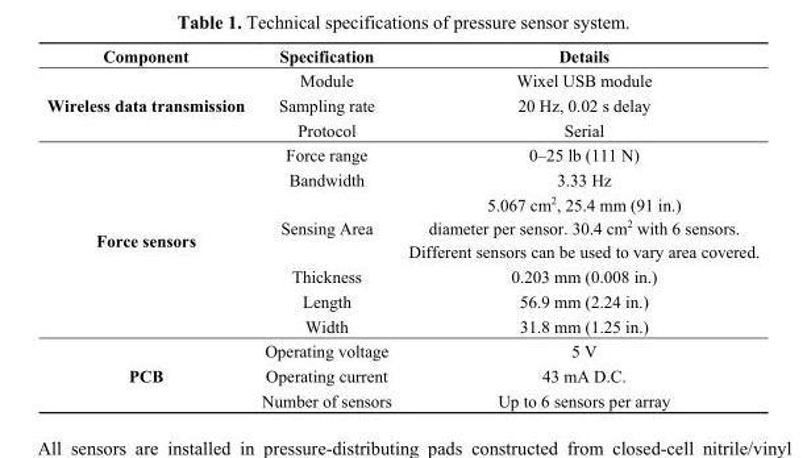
<table><thead><tr><td>Component</td><td>Specification</td><td>Details</td></tr></thead><tbody><tr><td rowspan="3">Wireless data transmission</td><td>Module</td><td>Wixel USB module</td></tr><tr><td>Sampling rate</td><td>20 Hz, 0.02 s delay</td></tr><tr><td>Protocol</td><td>Serial</td></tr><tr><td rowspan="6">Force sensors</td><td>Force range</td><td>0–25 lb (111 N)</td></tr><tr><td>Bandwidth</td><td>3.33 Hz</td></tr><tr><td>Sensing Area</td><td>5.067 cm<sup>2</sup>, 25.4 mm (91 in.) diameter per sensor. 30.4 cm<sup>2</sup> with 6 sensors. Different sensors can be used to vary area covered.</td></tr><tr><td>Thickness</td><td>0.203 mm (0.008 in.)</td></tr><tr><td>Length</td><td>56.9 mm (2.24 in.)</td></tr><tr><td>Width</td><td>31.8 mm (1.25 in.)</td></tr><tr><td rowspan="3">PCB</td><td>Operating voltage</td><td>5 V</td></tr><tr><td>Operating current</td><td>43 mA D.C.</td></tr><tr><td>Number of sensors</td><td>Up to 6 sensors per array</td></tr></tbody></table>